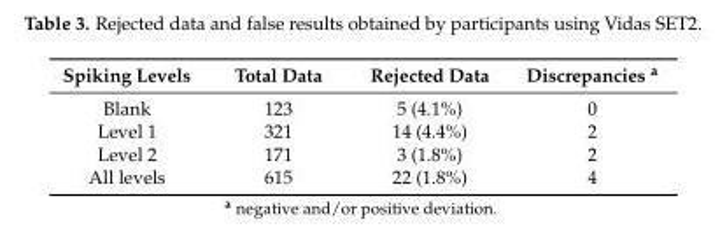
<table><thead><tr><td>Spiking Levels</td><td>Total Data</td><td>Rejected Data</td><td>Discrepancies <sup>a</sup></td></tr></thead><tbody><tr><td>Blank</td><td>123</td><td>5 (4.1%)</td><td>0</td></tr><tr><td>Level 1</td><td>321</td><td>14 (4.4%)</td><td>2</td></tr><tr><td>Level 2</td><td>171</td><td>3 (1.8%)</td><td>2</td></tr><tr><td>All levels</td><td>615</td><td>22 (1.8%)</td><td>4</td></tr></tbody></table>